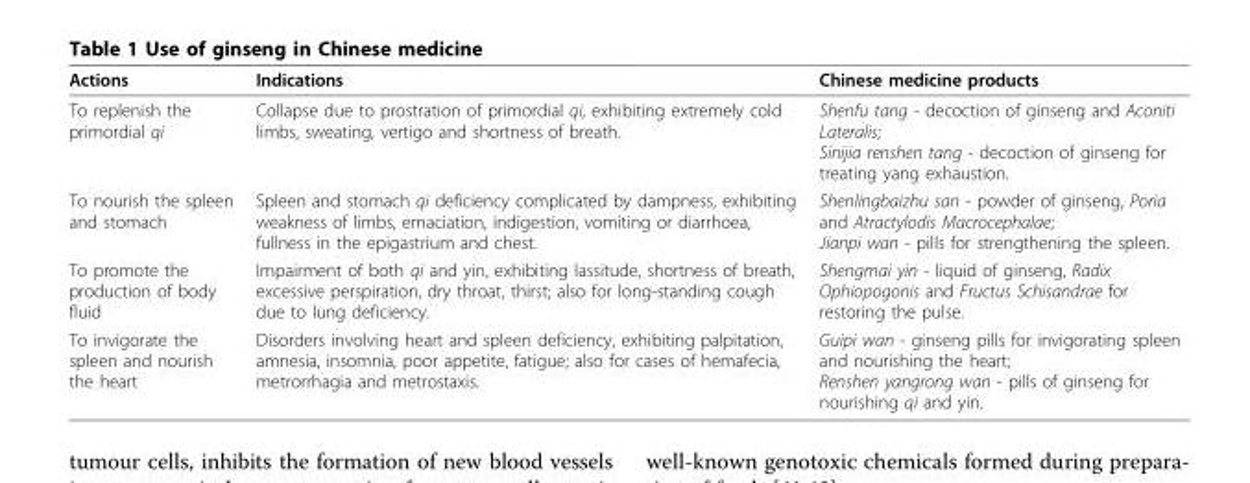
<table><thead><tr><td>Actions</td><td>Indications</td><td>Chinese medicine products</td></tr></thead><tbody><tr><td>To replenish the primordial qi</td><td>Collapse due to prostration of primordial qi, exhibiting extremely cold limbs, sweating, vertigo and shortness of breath.</td><td>Shenfu tang - decoction of ginseng and Aconiti Lateralis; Sinijia renshen tang - decoction of ginseng for treating yang exhaustion.</td></tr><tr><td>To nourish the spleen and stomach</td><td>Spleen and stomach qi deficiency complicated by dampness, exhibiting weakness of limbs, emaciation, indigestion, vomiting or diarrhoea, fullness in the epigastrium and chest.</td><td>Shenlingbaizhu san - powder of ginseng, Poria and Atractylodis Macrocephalae; Jianpi wan - pills for strengthening the spleen.</td></tr><tr><td>To promote the production of body fluid</td><td>Impairment of both qi and yin, exhibiting lassitude, shortness of breath, excessive perspiration, dry throat, thirst; also for long-standing cough due to lung deficiency.</td><td>Shengmai yin - liquid of ginseng, Radix Ophiopogonis and Fructus Schisandrae for restoring the pulse.</td></tr><tr><td>To invigorate the spleen and nourish the heart</td><td>Disorders involving heart and spleen deficiency, exhibiting palpitation, amnesia, insomnia, poor appetite, fatigue; also for cases of hemafecia, metrorrhagia and metrostaxis.</td><td>Guipi wan - ginseng pills for invigorating spleen and nourishing the heart; Renshen yangrong wan - pills of ginseng for nourishing qi and yin.</td></tr></tbody></table>